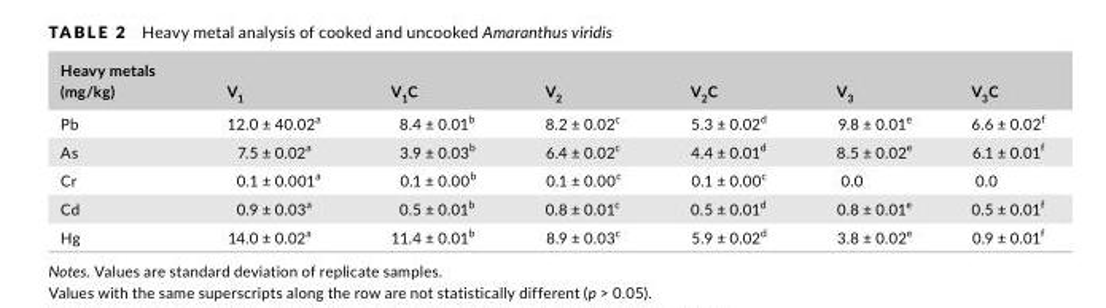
<table><thead><tr><td>Heavy metals (mg/kg)</td><td>V<sub>1</sub></td><td>V<sub>1</sub>C</td><td>V<sub>2</sub></td><td>V<sub>2</sub>C</td><td>V<sub>3</sub></td><td>V<sub>3</sub>C</td></tr></thead><tbody><tr><td>Pb</td><td>12.0 ± 40.02<sup>a</sup></td><td>8.4 ± 0.01<sup>b</sup></td><td>8.2 ± 0.02<sup>c</sup></td><td>5.3 ± 0.02<sup>d</sup></td><td>9.8 ± 0.01<sup>e</sup></td><td>6.6 ± 0.02<sup>f</sup></td></tr><tr><td>As</td><td>7.5 ± 0.02<sup>a</sup></td><td>3.9 ± 0.03<sup>b</sup></td><td>6.4 ± 0.02<sup>c</sup></td><td>4.4 ± 0.01<sup>d</sup></td><td>8.5 ± 0.02<sup>e</sup></td><td>6.1 ± 0.01<sup>f</sup></td></tr><tr><td>Cr</td><td>0.1 ± 0.001<sup>a</sup></td><td>0.1 ± 0.00<sup>b</sup></td><td>0.1 ± 0.00<sup>c</sup></td><td>0.1 ± 0.00<sup>c</sup></td><td>0.0</td><td>0.0</td></tr><tr><td>Cd</td><td>0.9 ± 0.03<sup>a</sup></td><td>0.5 ± 0.01<sup>b</sup></td><td>0.8 ± 0.01<sup>c</sup></td><td>0.5 ± 0.01<sup>d</sup></td><td>0.8 ± 0.01<sup>e</sup></td><td>0.5 ± 0.01<sup>f</sup></td></tr><tr><td>Hg</td><td>14.0 ± 0.02<sup>a</sup></td><td>11.4 ± 0.01<sup>b</sup></td><td>8.9 ± 0.03<sup>c</sup></td><td>5.9 ± 0.02<sup>d</sup></td><td>3.8 ± 0.02<sup>e</sup></td><td>0.9 ± 0.01<sup>f</sup></td></tr></tbody></table>